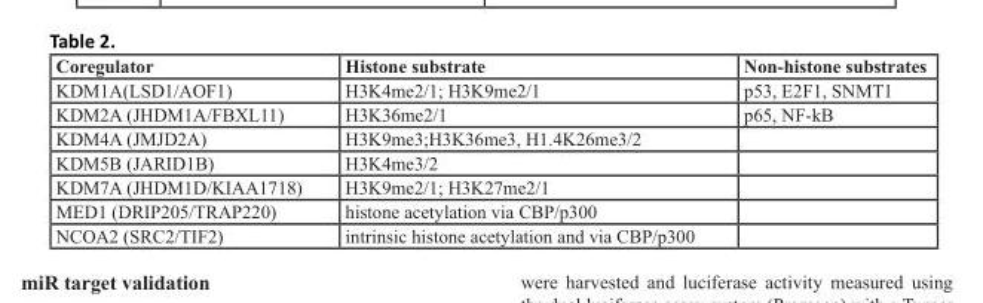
<table><thead><tr><td>Coregulator</td><td>Histone substrate</td><td>Non-histone substrates</td></tr></thead><tbody><tr><td>KDM1A(LSD1/AOF1)</td><td>H3K4me2/1; H3K9me2/1</td><td>p53, E2F1, SNMT1</td></tr><tr><td>KDM2A (JHDM1A/FBXL11)</td><td>H3K36me2/1</td><td>p65, NF-kB</td></tr><tr><td>KDM4A (JMJD2A)</td><td>H3K9me3;H3K36me3, H1.4K26me3/2</td><td></td></tr><tr><td>KDM5B (JARID1B)</td><td>H3K4me3/2</td><td></td></tr><tr><td>KDM7A (JHDM1D/KIAA1718)</td><td>H3K9me2/1; H3K27me2/1</td><td></td></tr><tr><td>MED1 (DRIP205/TRAP220)</td><td>histone acetylation via CBP/p300</td><td></td></tr><tr><td>NCOA2 (SRC2/TIF2)</td><td>intrinsic histone acetylation and via CBP/p300</td><td></td></tr></tbody></table>